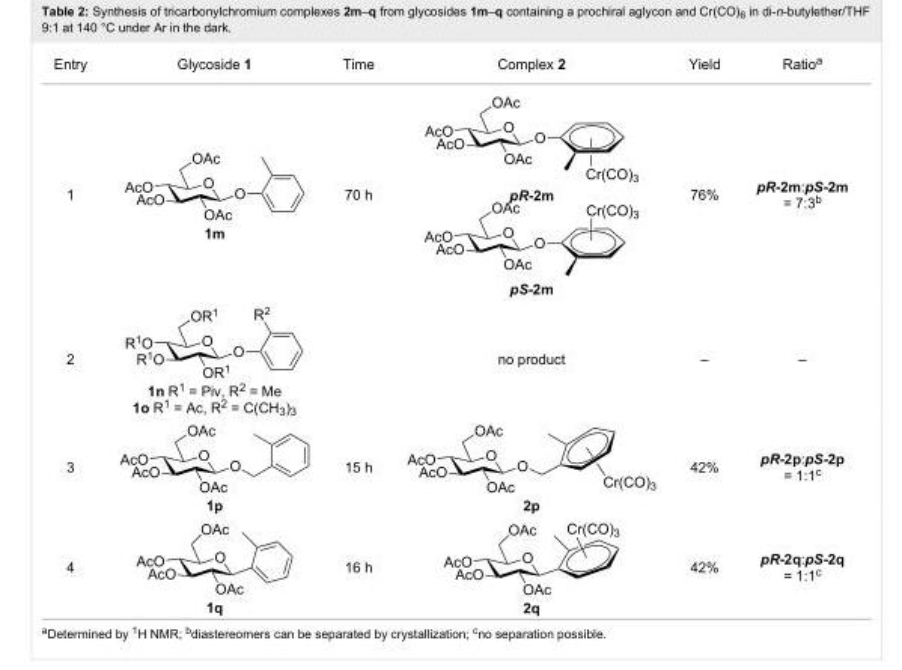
<table><tbody><tr><td>Entry</td><td>Glycoside 1</td><td>Time</td><td>Complex 2</td><td>Yield</td><td>Ratio<sup>a</sup></td></tr><tr><td>1</td><td>1m</td><td>70 h</td><td>pR-2m pS-2m</td><td>76%</td><td>pR-2m:pS-2m = 7:3<sup>b</sup></td></tr><tr><td>2</td><td>1n R1 = Piv, R2 = Me 1o R1 = Ac, R2 = C(CH3)3</td><td></td><td>no product</td><td>–</td><td>–</td></tr><tr><td>3</td><td>1p</td><td>15 h</td><td>2p</td><td>42%</td><td>pR-2p:pS-2p = 1:1<sup>c</sup></td></tr><tr><td>4</td><td>1q</td><td>16 h</td><td>2q</td><td>42%</td><td>pR-2q:pS-2q = 1:1<sup>c</sup></td></tr></tbody></table>